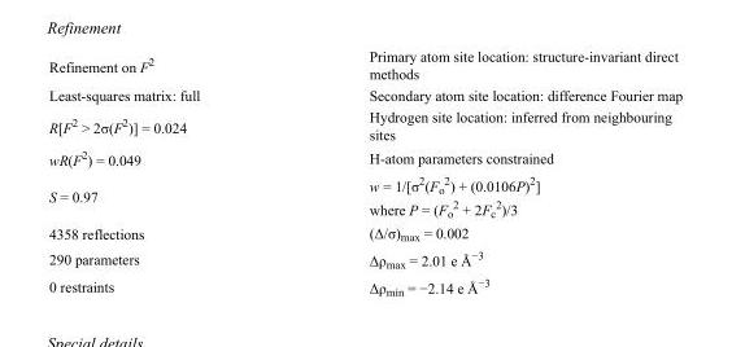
<table><tbody><tr><td>Refinement on F<sup>2</sup></td><td>Primary atom site location: structure-invariant direct methods</td></tr><tr><td>Least-squares matrix: full</td><td>Secondary atom site location: difference Fourier map</td></tr><tr><td>R[F<sup>2</sup> &gt; 2σ(F<sup>2</sup>)] = 0.024</td><td>Hydrogen site location: inferred from neighbouring sites</td></tr><tr><td>wR(F<sup>2</sup>) = 0.049</td><td>H-atom parameters constrained</td></tr><tr><td>S = 0.97</td><td>w = 1/[σ<sup>2</sup>(F<sub>o</sub> <sup>2</sup>) + (0.0106P)<sup>2</sup>] where P = (F<sub>o</sub> <sup>2</sup> + 2F<sub>c</sub> <sup>2</sup>)/3</td></tr><tr><td>4358 reflections</td><td>(Δ/σ)<sub>max</sub> = 0.002</td></tr><tr><td>290 parameters</td><td>Δρ<sub>max</sub> = 2.01 e Å<sup>−3</sup></td></tr><tr><td>0 restraints</td><td>Δρ<sub>min</sub> = −2.14 e Å<sup>−3</sup></td></tr></tbody></table>